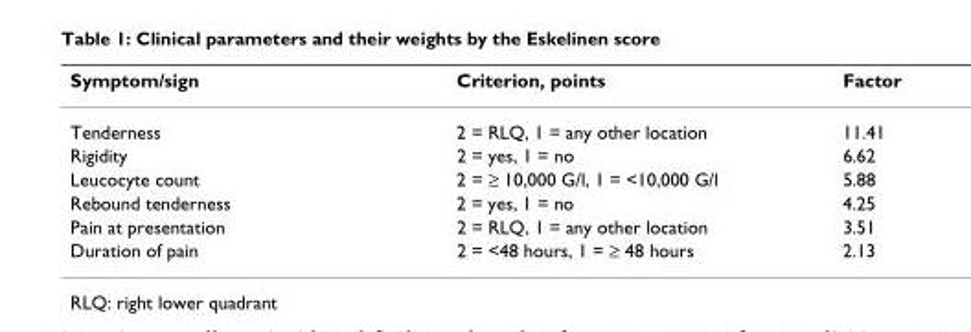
<table><thead><tr><td>Symptom/sign</td><td>Criterion, points</td><td>Factor</td></tr></thead><tbody><tr><td>Tenderness</td><td>2 = RLQ, 1 = any other location</td><td>11.41</td></tr><tr><td>Rigidity</td><td>2 = yes, 1 = no</td><td>6.62</td></tr><tr><td>Leucocyte count</td><td>2 = ≥ 10,000 G/l, 1 = &lt;10,000 G/l</td><td>5.88</td></tr><tr><td>Rebound tenderness</td><td>2 = yes, 1 = no</td><td>4.25</td></tr><tr><td>Pain at presentation</td><td>2 = RLQ, 1 = any other location</td><td>3.51</td></tr><tr><td>Duration of pain</td><td>2 = &lt;48 hours, 1 = ≥ 48 hours</td><td>2.13</td></tr></tbody></table>